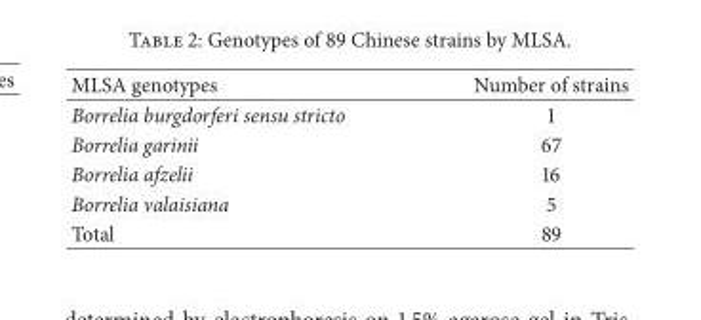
<table><thead><tr><td>MLSA genotypes</td><td>Number of strains</td></tr></thead><tbody><tr><td>Borrelia burgdorferi sensu stricto</td><td>1</td></tr><tr><td>Borrelia garinii</td><td>67</td></tr><tr><td>Borrelia afzelii</td><td>16</td></tr><tr><td>Borrelia valaisiana</td><td>5</td></tr><tr><td>Total</td><td>89</td></tr></tbody></table>